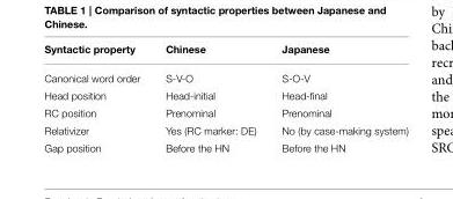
<table><thead><tr><td>Syntactic property</td><td>Chinese</td><td>Japanese</td></tr></thead><tbody><tr><td>Canonical word order</td><td>S-V-O</td><td>S-O-V</td></tr><tr><td>Head position</td><td>Head-initial</td><td>Head-final</td></tr><tr><td>RC position</td><td>Prenominal</td><td>Prenominal</td></tr><tr><td>Relativizer</td><td>Yes (RC marker: DE)</td><td>No (by case-making system)</td></tr><tr><td>Gap position</td><td>Before the HN</td><td>Before the HN</td></tr></tbody></table>